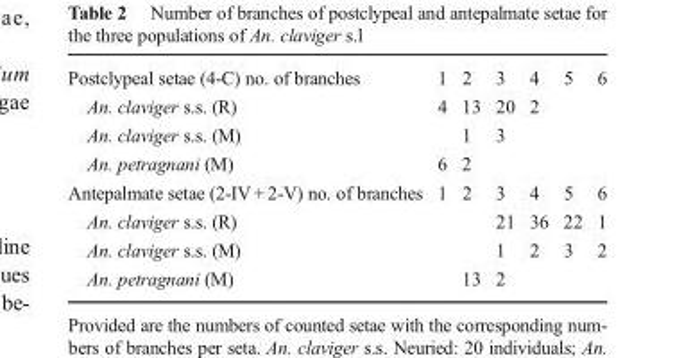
<table><tbody><tr><td>Postclypeal setae (4-C) no. of branches</td><td>1</td><td>2</td><td>3</td><td>4</td><td>5</td><td>6</td></tr><tr><td>An. claviger s.s. (R)</td><td>4</td><td>13</td><td>20</td><td>2</td><td></td><td></td></tr><tr><td>An. claviger s.s. (M)</td><td></td><td>1</td><td>3</td><td></td><td></td><td></td></tr><tr><td>An. petragnani (M)</td><td>6</td><td>2</td><td></td><td></td><td></td><td></td></tr><tr><td>Antepalmate setae (2-IV + 2-V) no. of branches</td><td>1</td><td>2</td><td>3</td><td>4</td><td>5</td><td>6</td></tr><tr><td>An. claviger s.s. (R)</td><td></td><td></td><td>21</td><td>36</td><td>22</td><td>1</td></tr><tr><td>An. claviger s.s. (M)</td><td></td><td></td><td>1</td><td>2</td><td>3</td><td>2</td></tr><tr><td>An. petragnani (M)</td><td></td><td>13</td><td>2</td><td></td><td></td><td></td></tr></tbody></table>